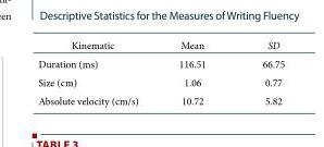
<table><thead><tr><td>Kinematic</td><td>Mean</td><td>SD</td></tr></thead><tbody><tr><td>Duration (ms)</td><td>116.51</td><td>66.75</td></tr><tr><td>Size (cm)</td><td>1.06</td><td>0.77</td></tr><tr><td>Absolute velocity (cm/s)</td><td>10.72</td><td>5.82</td></tr></tbody></table>